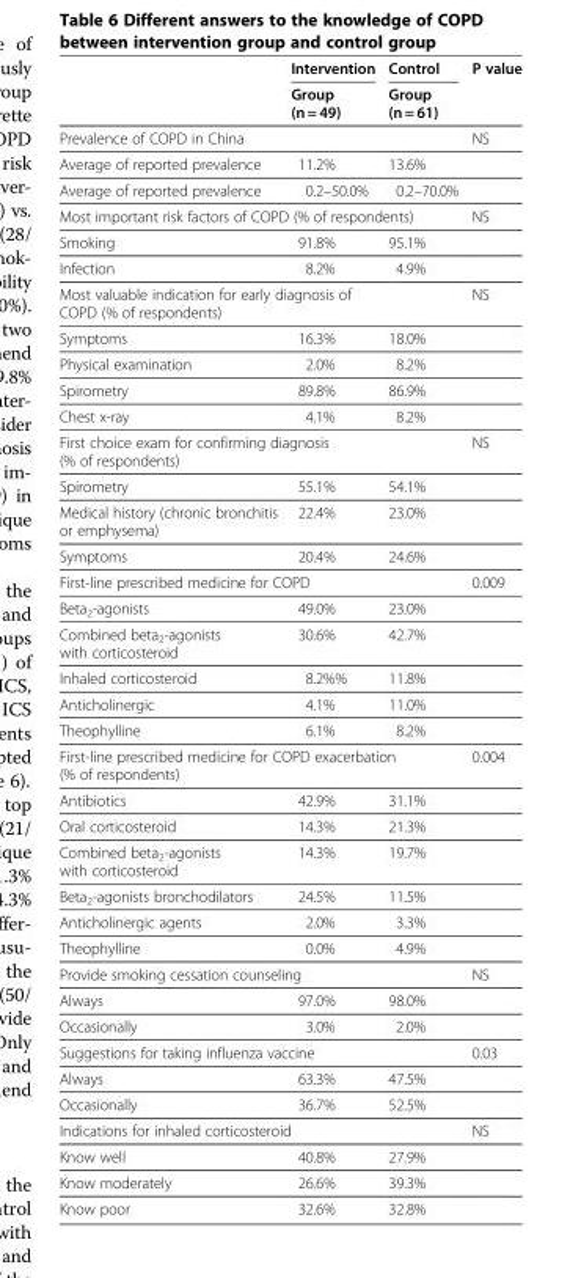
<table><thead><tr><td rowspan="2"></td><td rowspan="2">Intervention Group (n = 49)</td><td rowspan="2">Control Group (n = 61)</td><td rowspan="2">P value</td></tr><tr></tr></thead><tbody><tr><td>Prevalence of COPD in China</td><td></td><td></td><td>NS</td></tr><tr><td>Average of reported prevalence</td><td>11.2%</td><td>13.6%</td><td></td></tr><tr><td>Average of reported prevalence</td><td>0.2–50.0%</td><td>0.2–70.0%</td><td></td></tr><tr><td colspan="3">Most important risk factors of COPD (% of respondents)</td><td>NS</td></tr><tr><td>Smoking</td><td>91.8%</td><td>95.1%</td><td></td></tr><tr><td>Infection</td><td>8.2%</td><td>4.9%</td><td></td></tr><tr><td colspan="3">Most valuable indication for early diagnosis of COPD (% of respondents)</td><td>NS</td></tr><tr><td>Symptoms</td><td>16.3%</td><td>18.0%</td><td></td></tr><tr><td>Physical examination</td><td>2.0%</td><td>8.2%</td><td></td></tr><tr><td>Spirometry</td><td>89.8%</td><td>86.9%</td><td></td></tr><tr><td>Chest x-ray</td><td>4.1%</td><td>8.2%</td><td></td></tr><tr><td colspan="3">First choice exam for confirming diagnosis (% of respondents)</td><td>NS</td></tr><tr><td>Spirometry</td><td>55.1%</td><td>54.1%</td><td></td></tr><tr><td>Medical history (chronic bronchitis or emphysema)</td><td>22.4%</td><td>23.0%</td><td></td></tr><tr><td>Symptoms</td><td>20.4%</td><td>24.6%</td><td></td></tr><tr><td colspan="3">First-line prescribed medicine for COPD</td><td>0.009</td></tr><tr><td>Beta<sub>2</sub>-agonists</td><td>49.0%</td><td>23.0%</td><td></td></tr><tr><td>Combined beta<sub>2</sub>-agonists with corticosteroid</td><td>30.6%</td><td>42.7%</td><td></td></tr><tr><td>Inhaled corticosteroid</td><td>8.2%%</td><td>11.8%</td><td></td></tr><tr><td>Anticholinergic</td><td>4.1%</td><td>11.0%</td><td></td></tr><tr><td>Theophylline</td><td>6.1%</td><td>8.2%</td><td></td></tr><tr><td colspan="3">First-line prescribed medicine for COPD exacerbation (% of respondents)</td><td>0.004</td></tr><tr><td>Antibiotics</td><td>42.9%</td><td>31.1%</td><td></td></tr><tr><td>Oral corticosteroid</td><td>14.3%</td><td>21.3%</td><td></td></tr><tr><td>Combined beta<sub>2</sub>-agonists with corticosteroid</td><td>14.3%</td><td>19.7%</td><td></td></tr><tr><td>Beta<sub>2</sub>-agonists bronchodilators</td><td>24.5%</td><td>11.5%</td><td></td></tr><tr><td>Anticholinergic agents</td><td>2.0%</td><td>3.3%</td><td></td></tr><tr><td>Theophylline</td><td>0.0%</td><td>4.9%</td><td></td></tr><tr><td colspan="3">Provide smoking cessation counseling</td><td>NS</td></tr><tr><td>Always</td><td>97.0%</td><td>98.0%</td><td></td></tr><tr><td>Occasionally</td><td>3.0%</td><td>2.0%</td><td></td></tr><tr><td colspan="3">Suggestions for taking influenza vaccine</td><td>0.03</td></tr><tr><td>Always</td><td>63.3%</td><td>47.5%</td><td></td></tr><tr><td>Occasionally</td><td>36.7%</td><td>52.5%</td><td></td></tr><tr><td colspan="3">Indications for inhaled corticosteroid</td><td>NS</td></tr><tr><td>Know well</td><td>40.8%</td><td>27.9%</td><td></td></tr><tr><td>Know moderately</td><td>26.6%</td><td>39.3%</td><td></td></tr><tr><td>Know poor</td><td>32.6%</td><td>32.8%</td><td></td></tr></tbody></table>